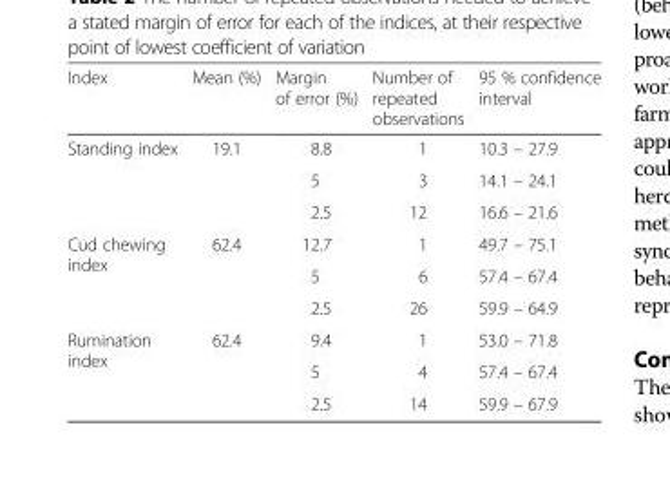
<table><thead><tr><td>Index</td><td>Mean (%)</td><td>Margin of error (%)</td><td>Number of repeated observations</td><td>95 % confidence interval</td></tr></thead><tbody><tr><td rowspan="3">Standing index</td><td>19.1</td><td>8.8</td><td>1</td><td>10.3 – 27.9</td></tr><tr><td></td><td>5</td><td>3</td><td>14.1 – 24.1</td></tr><tr><td></td><td>2.5</td><td>12</td><td>16.6 – 21.6</td></tr><tr><td rowspan="3">Cud chewing index</td><td>62.4</td><td>12.7</td><td>1</td><td>49.7 – 75.1</td></tr><tr><td></td><td>5</td><td>6</td><td>57.4 – 67.4</td></tr><tr><td></td><td>2.5</td><td>26</td><td>59.9 – 64.9</td></tr><tr><td rowspan="3">Rumination index</td><td>62.4</td><td>9.4</td><td>1</td><td>53.0 – 71.8</td></tr><tr><td></td><td>5</td><td>4</td><td>57.4 – 67.4</td></tr><tr><td></td><td>2.5</td><td>14</td><td>59.9 – 67.9</td></tr></tbody></table>